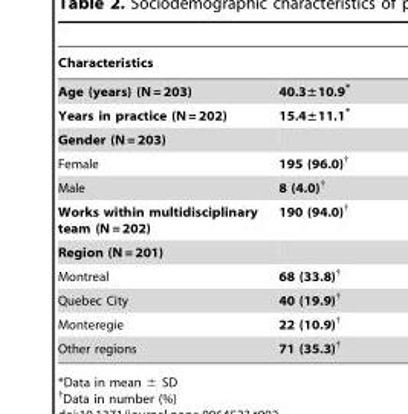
<table><thead><tr><td>Characteristics</td><td></td></tr></thead><tbody><tr><td>Age (years) (N = 203)</td><td>40.3±10.9*</td></tr><tr><td>Years in practice (N = 202)</td><td>15.4±11.1*</td></tr><tr><td colspan="2">Gender (N = 203)</td></tr><tr><td>Female</td><td>195 (96.0)†</td></tr><tr><td>Male</td><td>8 (4.0)†</td></tr><tr><td>Works within multidisciplinary team (N = 202)</td><td>190 (94.0)†</td></tr><tr><td colspan="2">Region (N = 201)</td></tr><tr><td>Montreal</td><td>68 (33.8)†</td></tr><tr><td>Quebec City</td><td>40 (19.9)†</td></tr><tr><td>Monteregie</td><td>22 (10.9)†</td></tr><tr><td>Other regions</td><td>71 (35.3)†</td></tr></tbody></table>